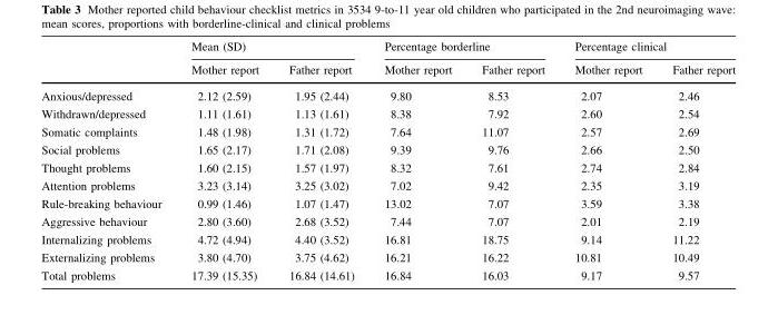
<table><thead><tr><td rowspan="2"></td><td colspan="2">Mean (SD)</td><td colspan="2">Percentage borderline</td><td colspan="2">Percentage clinical</td></tr><tr><td>Mother report</td><td>Father report</td><td>Mother report</td><td>Father report</td><td>Mother report</td><td>Father report</td></tr></thead><tbody><tr><td>Anxious/depressed</td><td>2.12 (2.59)</td><td>1.95 (2.44)</td><td>9.80</td><td>8.53</td><td>2.07</td><td>2.46</td></tr><tr><td>Withdrawn/depressed</td><td>1.11 (1.61)</td><td>1.13 (1.61)</td><td>8.38</td><td>7.92</td><td>2.60</td><td>2.54</td></tr><tr><td>Somatic complaints</td><td>1.48 (1.98)</td><td>1.31 (1.72)</td><td>7.64</td><td>11.07</td><td>2.57</td><td>2.69</td></tr><tr><td>Social problems</td><td>1.65 (2.17)</td><td>1.71 (2.08)</td><td>9.39</td><td>9.76</td><td>2.66</td><td>2.50</td></tr><tr><td>Thought problems</td><td>1.60 (2.15)</td><td>1.57 (1.97)</td><td>8.32</td><td>7.61</td><td>2.74</td><td>2.84</td></tr><tr><td>Attention problems</td><td>3.23 (3.14)</td><td>3.25 (3.02)</td><td>7.02</td><td>9.42</td><td>2.35</td><td>3.19</td></tr><tr><td>Rule-breaking behaviour</td><td>0.99 (1.46)</td><td>1.07 (1.47)</td><td>13.02</td><td>7.07</td><td>3.59</td><td>3.38</td></tr><tr><td>Aggressive behaviour</td><td>2.80 (3.60)</td><td>2.68 (3.52)</td><td>7.44</td><td>7.07</td><td>2.01</td><td>2.19</td></tr><tr><td>Internalizing problems</td><td>4.72 (4.94)</td><td>4.40 (3.52)</td><td>16.81</td><td>18.75</td><td>9.14</td><td>11.22</td></tr><tr><td>Externalizing problems</td><td>3.80 (4.70)</td><td>3.75 (4.62)</td><td>16.21</td><td>16.22</td><td>10.81</td><td>10.49</td></tr><tr><td>Total problems</td><td>17.39 (15.35)</td><td>16.84 (14.61)</td><td>16.84</td><td>16.03</td><td>9.17</td><td>9.57</td></tr></tbody></table>